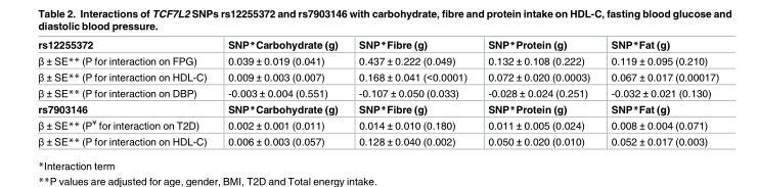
<table><tbody><tr><td>rs12255372</td><td>SNP*Carbohydrate (g)</td><td>SNP*Fibre (g)</td><td>SNP*Protein (g)</td><td>SNP*Fat (g)</td></tr><tr><td>β ± SE** (P for interaction on FPG)</td><td>0.039 ± 0.019 (0.041)</td><td>0.437 ± 0.222 (0.049)</td><td>0.132 ± 0.108 (0.222)</td><td>0.119 ± 0.095 (0.210)</td></tr><tr><td>β ± SE** (P for interaction on HDL-C)</td><td>0.009 ± 0.003 (0.007)</td><td>0.168 ± 0.041 (&lt;0.0001)</td><td>0.072 ± 0.020 (0.0003)</td><td>0.067 ± 0.017 (0.00017)</td></tr><tr><td>β ± SE** (P for interaction on DBP)</td><td>-0.003 ± 0.004 (0.551)</td><td>-0.107 ± 0.050 (0.033)</td><td>-0.028 ± 0.024 (0.251)</td><td>-0.032 ± 0.021 (0.130)</td></tr><tr><td>rs7903146</td><td>SNP*Carbohydrate (g)</td><td>SNP*Fibre (g)</td><td>SNP*Protein (g)</td><td>SNP*Fat (g)</td></tr><tr><td>β ± SE** (P<sup>¥</sup> for interaction on T2D)</td><td>0.002 ± 0.001 (0.011)</td><td>0.014 ± 0.010 (0.180)</td><td>0.011 ± 0.005 (0.024)</td><td>0.008 ± 0.004 (0.071)</td></tr><tr><td>β ± SE** (P for interaction on HDL-C)</td><td>0.006 ± 0.003 (0.057)</td><td>0.128 ± 0.040 (0.002)</td><td>0.050 ± 0.020 (0.010)</td><td>0.052 ± 0.017 (0.003)</td></tr></tbody></table>